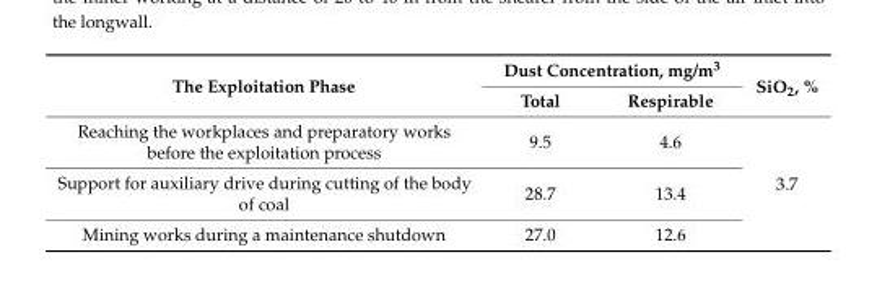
<table><thead><tr><td rowspan="2">The Exploitation Phase</td><td colspan="2">Dust Concentration, mg/m<sup>3</sup></td><td rowspan="2">SiO<sub>2</sub>, %</td></tr><tr><td>Total</td><td>Respirable</td></tr></thead><tbody><tr><td>Reaching the workplaces and preparatory works before the exploitation process</td><td>9.5</td><td>4.6</td><td rowspan="3">3.7</td></tr><tr><td>Support for auxiliary drive during cutting of the body of coal</td><td>28.7</td><td>13.4</td></tr><tr><td>Mining works during a maintenance shutdown</td><td>27.0</td><td>12.6</td></tr></tbody></table>